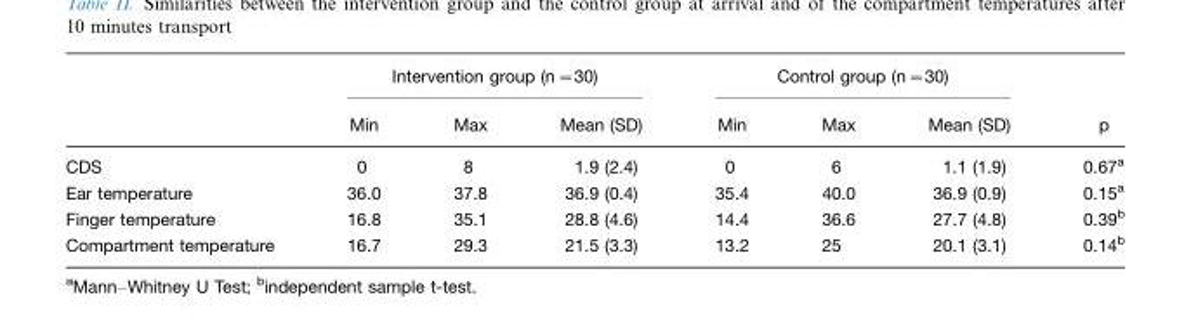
<table><thead><tr><td rowspan="2"></td><td colspan="3">Intervention group (n=30)</td><td colspan="3">Control group (n=30)</td><td rowspan="2">p</td></tr><tr><td>Min</td><td>Max</td><td>Mean (SD)</td><td>Min</td><td>Max</td><td>Mean (SD)</td></tr></thead><tbody><tr><td>CDS</td><td>0</td><td>8</td><td>1.9 (2.4)</td><td>0</td><td>6</td><td>1.1 (1.9)</td><td>0.67<sup>a</sup></td></tr><tr><td>Ear temperature</td><td>36.0</td><td>37.8</td><td>36.9 (0.4)</td><td>35.4</td><td>40.0</td><td>36.9 (0.9)</td><td>0.15<sup>a</sup></td></tr><tr><td>Finger temperature</td><td>16.8</td><td>35.1</td><td>28.8 (4.6)</td><td>14.4</td><td>36.6</td><td>27.7 (4.8)</td><td>0.39<sup>b</sup></td></tr><tr><td>Compartment temperature</td><td>16.7</td><td>29.3</td><td>21.5 (3.3)</td><td>13.2</td><td>25</td><td>20.1 (3.1)</td><td>0.14<sup>b</sup></td></tr></tbody></table>